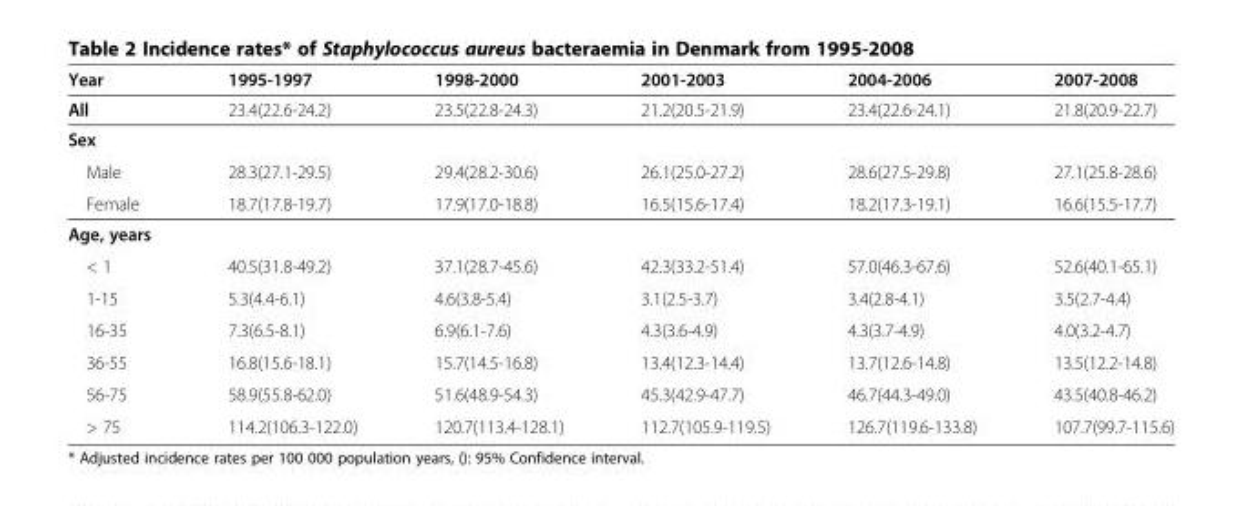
<table><thead><tr><td>Year</td><td>1995-1997</td><td>1998-2000</td><td>2001-2003</td><td>2004-2006</td><td>2007-2008</td></tr></thead><tbody><tr><td>All</td><td>23.4(22.6-24.2)</td><td>23.5(22.8-24.3)</td><td>21.2(20.5-21.9)</td><td>23.4(22.6-24.1)</td><td>21.8(20.9-22.7)</td></tr><tr><td colspan="6">Sex</td></tr><tr><td>Male</td><td>28.3(27.1-29.5)</td><td>29.4(28.2-30.6)</td><td>26.1(25.0-27.2)</td><td>28.6(27.5-29.8)</td><td>27.1(25.8-28.6)</td></tr><tr><td>Female</td><td>18.7(17.8-19.7)</td><td>17.9(17.0-18.8)</td><td>16.5(15.6-17.4)</td><td>18.2(17.3-19.1)</td><td>16.6(15.5-17.7)</td></tr><tr><td colspan="6">Age, years</td></tr><tr><td>&lt; 1</td><td>40.5(31.8-49.2)</td><td>37.1(28.7-45.6)</td><td>42.3(33.2-51.4)</td><td>57.0(46.3-67.6)</td><td>52.6(40.1-65.1)</td></tr><tr><td>1-15</td><td>5.3(4.4-6.1)</td><td>4.6(3.8-5.4)</td><td>3.1(2.5-3.7)</td><td>3.4(2.8-4.1)</td><td>3.5(2.7-4.4)</td></tr><tr><td>16-35</td><td>7.3(6.5-8.1)</td><td>6.9(6.1-7.6)</td><td>4.3(3.6-4.9)</td><td>4.3(3.7-4.9)</td><td>4.0(3.2-4.7)</td></tr><tr><td>36-55</td><td>16.8(15.6-18.1)</td><td>15.7(14.5-16.8)</td><td>13.4(12.3-14.4)</td><td>13.7(12.6-14.8)</td><td>13.5(12.2-14.8)</td></tr><tr><td>56-75</td><td>58.9(55.8-62.0)</td><td>51.6(48.9-54.3)</td><td>45.3(42.9-47.7)</td><td>46.7(44.3-49.0)</td><td>43.5(40.8-46.2)</td></tr><tr><td>&gt; 75</td><td>114.2(106.3-122.0)</td><td>120.7(113.4-128.1)</td><td>112.7(105.9-119.5)</td><td>126.7(119.6-133.8)</td><td>107.7(99.7-115.6)</td></tr></tbody></table>